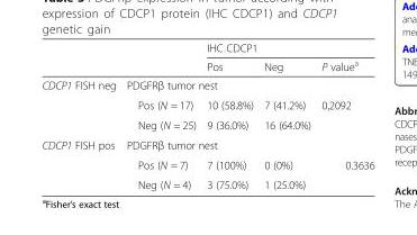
<table><thead><tr><td rowspan="2"></td><td rowspan="2"></td><td colspan="3">IHC CDCP1</td></tr><tr><td>Pos</td><td>Neg</td><td>P value<sup>a</sup></td></tr></thead><tbody><tr><td rowspan="3">CDCP1 FISH neg</td><td colspan="4">PDGFRβ tumor nest</td></tr><tr><td>Pos (N = 17)</td><td>10 (58.8%)</td><td>7 (41.2%)</td><td>0,2092</td></tr><tr><td>Neg (N = 25)</td><td>9 (36.0%)</td><td>16 (64.0%)</td><td></td></tr><tr><td rowspan="3">CDCP1 FISH pos</td><td colspan="4">PDGFRβ tumor nest</td></tr><tr><td>Pos (N = 7)</td><td>7 (100%)</td><td>0 (0%)</td><td>0.3636</td></tr><tr><td>Neg (N = 4)</td><td>3 (75.0%)</td><td>1 (25.0%)</td><td></td></tr></tbody></table>